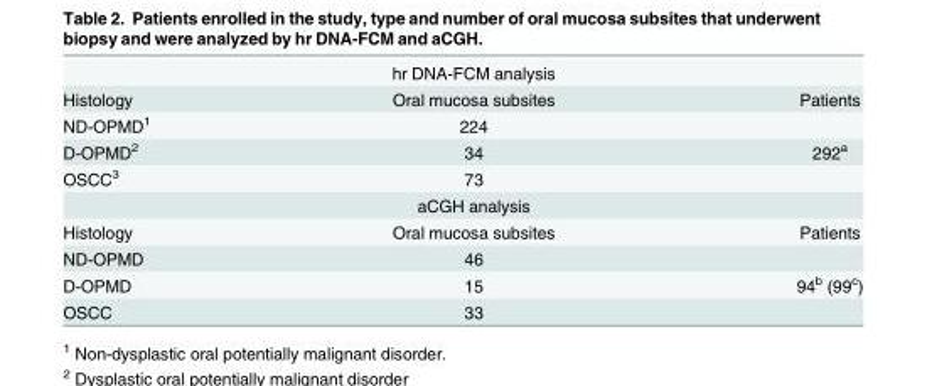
<table><thead><tr><td></td><td>hr DNA-FCM analysis</td><td></td></tr></thead><tbody><tr><td>Histology</td><td>Oral mucosa subsites</td><td>Patients</td></tr><tr><td>ND-OPMD<sup>1</sup></td><td>224</td><td></td></tr><tr><td>D-OPMD<sup>2</sup></td><td>34</td><td>292<sup>a</sup></td></tr><tr><td rowspan="2">OSCC<sup>3</sup></td><td>73</td><td></td></tr><tr><td>aCGH analysis</td><td></td></tr><tr><td>Histology</td><td>Oral mucosa subsites</td><td>Patients</td></tr><tr><td>ND-OPMD</td><td>46</td><td></td></tr><tr><td>D-OPMD</td><td>15</td><td>94<sup>b</sup> (99<sup>c</sup>)</td></tr><tr><td>OSCC</td><td>33</td><td></td></tr></tbody></table>